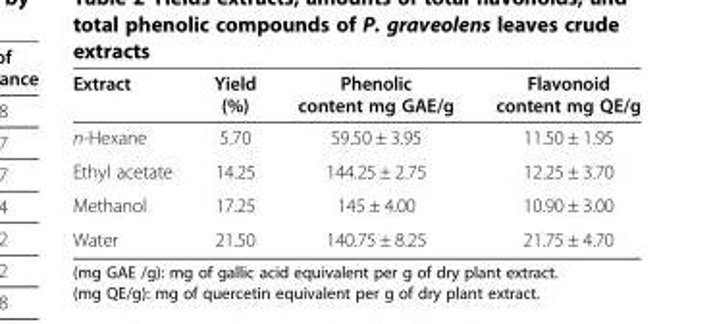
<table><thead><tr><td>Extract</td><td>Yield (%)</td><td>Phenolic content mg GAE/g</td><td>Flavonoid content mg QE/g</td></tr></thead><tbody><tr><td>n-Hexane</td><td>5.70</td><td>59.50 ± 3.95</td><td>11.50 ± 1.95</td></tr><tr><td>Ethyl acetate</td><td>14.25</td><td>144.25 ± 2.75</td><td>12.25 ± 3.70</td></tr><tr><td>Methanol</td><td>17.25</td><td>145 ± 4.00</td><td>10.90 ± 3.00</td></tr><tr><td>Water</td><td>21.50</td><td>140.75 ± 8.25</td><td>21.75 ± 4.70</td></tr></tbody></table>